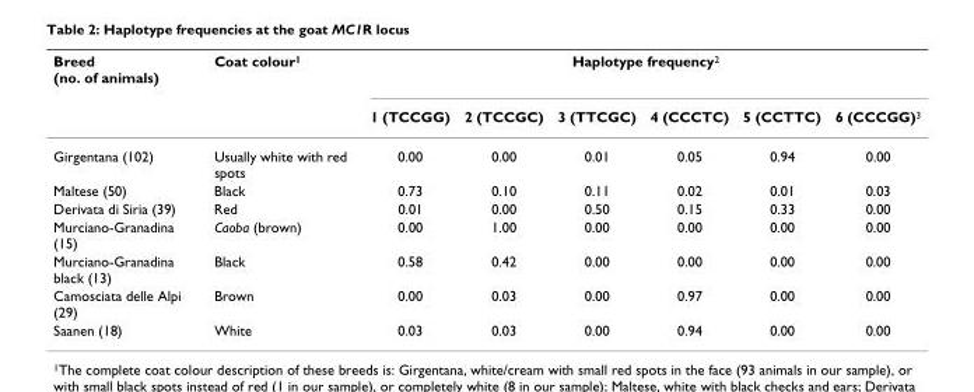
<table><thead><tr><td rowspan="2">Breed (no. of animals)</td><td rowspan="2">Coat colour<sup>1</sup></td><td colspan="6">Haplotype frequency<sup>2</sup></td></tr><tr><td>1 (TCCGG)</td><td>2 (TCCGC)</td><td>3 (TTCGC)</td><td>4 (CCCTC)</td><td>5 (CCTTC)</td><td>6 (CCCGG)<sup>3</sup></td></tr></thead><tbody><tr><td>Girgentana (102)</td><td>Usually white with red spots</td><td>0.00</td><td>0.00</td><td>0.01</td><td>0.05</td><td>0.94</td><td>0.00</td></tr><tr><td>Maltese (50)</td><td>Black</td><td>0.73</td><td>0.10</td><td>0.11</td><td>0.02</td><td>0.01</td><td>0.03</td></tr><tr><td>Derivata di Siria (39)</td><td>Red</td><td>0.01</td><td>0.00</td><td>0.50</td><td>0.15</td><td>0.33</td><td>0.00</td></tr><tr><td>Murciano-Granadina (15)</td><td>Caoba (brown)</td><td>0.00</td><td>1.00</td><td>0.00</td><td>0.00</td><td>0.00</td><td>0.00</td></tr><tr><td>Murciano-Granadina black (13)</td><td>Black</td><td>0.58</td><td>0.42</td><td>0.00</td><td>0.00</td><td>0.00</td><td>0.00</td></tr><tr><td>Camosciata delle Alpi (29)</td><td>Brown</td><td>0.00</td><td>0.03</td><td>0.00</td><td>0.97</td><td>0.00</td><td>0.00</td></tr><tr><td>Saanen (18)</td><td>White</td><td>0.03</td><td>0.03</td><td>0.00</td><td>0.94</td><td>0.00</td><td>0.00</td></tr></tbody></table>